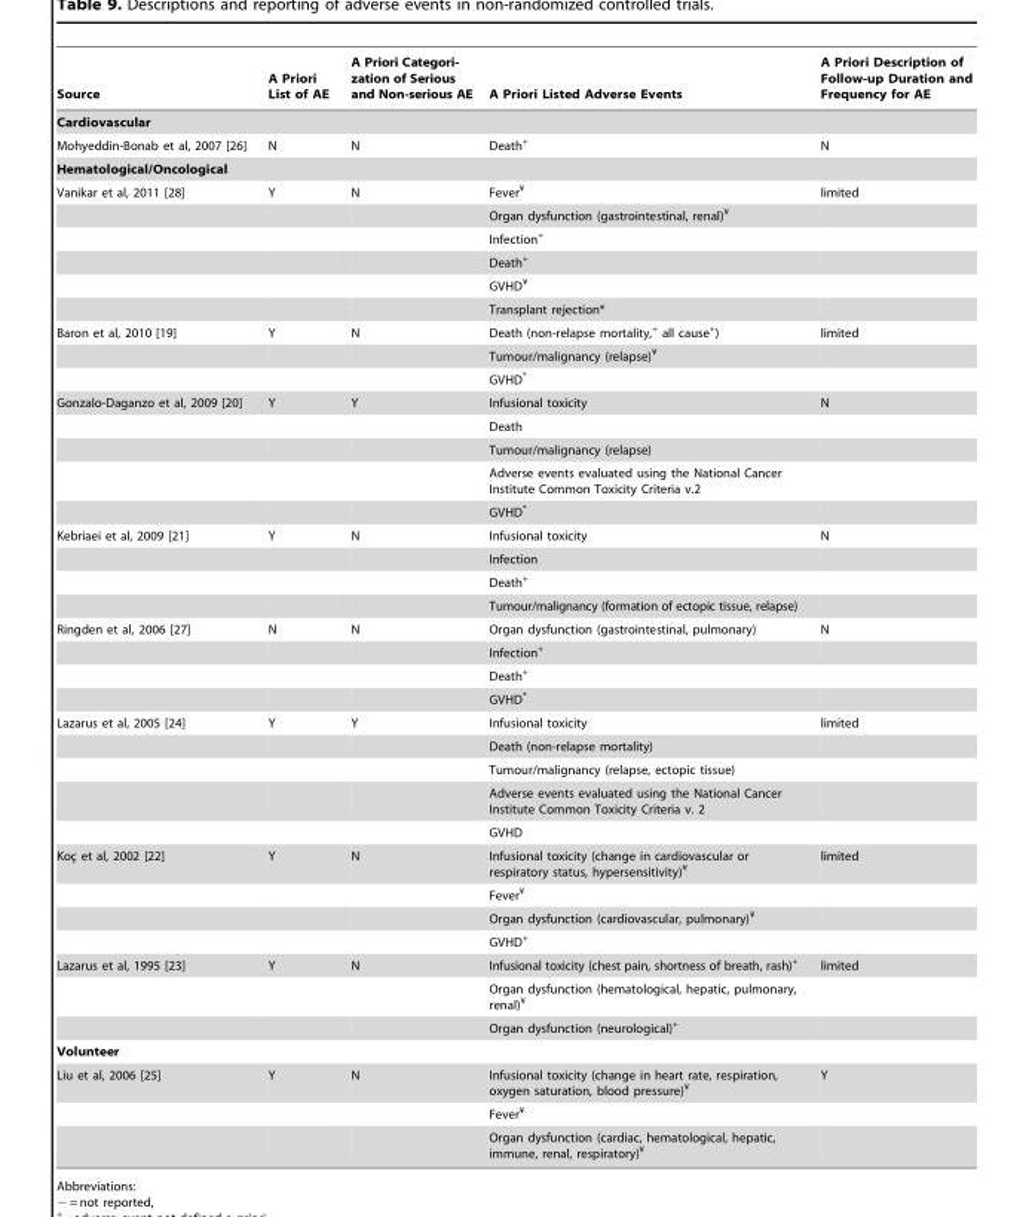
<table><thead><tr><td>Source</td><td>A Priori List of AE</td><td>A Priori Categori- zation of Serious and Non-serious AE</td><td>A Priori Listed Adverse Events</td><td>A Priori Description of Follow-up Duration and Frequency for AE</td></tr></thead><tbody><tr><td colspan="5">Cardiovascular</td></tr><tr><td>Mohyeddin-Bonab et al, 2007 [26]</td><td>N</td><td>N</td><td>Death+</td><td>N</td></tr><tr><td colspan="5">Hematological/Oncological</td></tr><tr><td rowspan="6">Vanikar et al, 2011 [28]</td><td>Y</td><td>N</td><td>Fever¥</td><td>limited</td></tr><tr><td></td><td></td><td>Organ dysfunction (gastrointestinal, renal)¥</td><td></td></tr><tr><td></td><td></td><td>Infection+</td><td></td></tr><tr><td></td><td></td><td>Death+</td><td></td></tr><tr><td></td><td></td><td>GVHD¥</td><td></td></tr><tr><td></td><td></td><td>Transplant rejection*</td><td></td></tr><tr><td rowspan="3">Baron et al, 2010 [19]</td><td>Y</td><td>N</td><td>Death (non-relapse mortality,+ all cause+)</td><td>limited</td></tr><tr><td></td><td></td><td>Tumour/malignancy (relapse)¥</td><td></td></tr><tr><td></td><td></td><td>GVHD*</td><td></td></tr><tr><td rowspan="5">Gonzalo-Daganzo et al, 2009 [20]</td><td>Y</td><td>Y</td><td>Infusional toxicity</td><td>N</td></tr><tr><td></td><td></td><td>Death</td><td></td></tr><tr><td></td><td></td><td>Tumour/malignancy (relapse)</td><td></td></tr><tr><td></td><td></td><td>Adverse events evaluated using the National Cancer Institute Common Toxicity Criteria v.2</td><td></td></tr><tr><td></td><td></td><td>GVHD*</td><td></td></tr><tr><td rowspan="4">Kebriaei et al, 2009 [21]</td><td>Y</td><td>N</td><td>Infusional toxicity</td><td>N</td></tr><tr><td></td><td></td><td>Infection</td><td></td></tr><tr><td></td><td></td><td>Death+</td><td></td></tr><tr><td></td><td></td><td>Tumour/malignancy (formation of ectopic tissue, relapse)</td><td></td></tr><tr><td rowspan="4">Ringden et al, 2006 [27]</td><td>N</td><td>N</td><td>Organ dysfunction (gastrointestinal, pulmonary)</td><td>N</td></tr><tr><td></td><td></td><td>Infection+</td><td></td></tr><tr><td></td><td></td><td>Death+</td><td></td></tr><tr><td></td><td></td><td>GVHD*</td><td></td></tr><tr><td rowspan="5">Lazarus et al, 2005 [24]</td><td>Y</td><td>Y</td><td>Infusional toxicity</td><td>limited</td></tr><tr><td></td><td></td><td>Death (non-relapse mortality)</td><td></td></tr><tr><td></td><td></td><td>Tumour/malignancy (relapse, ectopic tissue)</td><td></td></tr><tr><td></td><td></td><td>Adverse events evaluated using the National Cancer Institute Common Toxicity Criteria v. 2</td><td></td></tr><tr><td></td><td></td><td>GVHD</td><td></td></tr><tr><td rowspan="4">Koc¸ et al, 2002 [22]</td><td>Y</td><td>N</td><td>Infusional toxicity (change in cardiovascular or respiratory status, hypersensitivity)¥</td><td>limited</td></tr><tr><td></td><td></td><td>Fever¥</td><td></td></tr><tr><td></td><td></td><td>Organ dysfunction (cardiovascular, pulmonary)¥</td><td></td></tr><tr><td></td><td></td><td>GVHD+</td><td></td></tr><tr><td rowspan="3">Lazarus et al, 1995 [23]</td><td>Y</td><td>N</td><td>Infusional toxicity (chest pain, shortness of breath, rash)+</td><td>limited</td></tr><tr><td></td><td></td><td>Organ dysfunction (hematological, hepatic, pulmonary, renal)¥</td><td></td></tr><tr><td></td><td></td><td>Organ dysfunction (neurological)+</td><td></td></tr><tr><td colspan="5">Volunteer</td></tr><tr><td rowspan="3">Liu et al, 2006 [25]</td><td>Y</td><td>N</td><td>Infusional toxicity (change in heart rate, respiration, oxygen saturation, blood pressure)¥</td><td>Y</td></tr><tr><td></td><td></td><td>Fever¥</td><td></td></tr><tr><td></td><td></td><td>Organ dysfunction (cardiac, hematological, hepatic, immune, renal, respiratory)¥</td><td></td></tr></tbody></table>